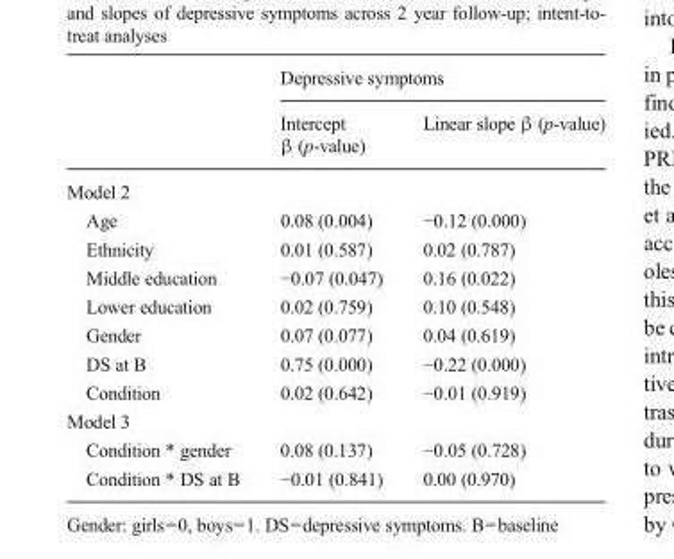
<table><thead><tr><td rowspan="2"></td><td colspan="2">Depressive symptoms</td></tr><tr><td>Intercept β (p-value)</td><td>Linear slope β (p-value)</td></tr></thead><tbody><tr><td colspan="3">Model 2</td></tr><tr><td>Age</td><td>0.08 (0.004)</td><td>−0.12 (0.000)</td></tr><tr><td>Ethnicity</td><td>0.01 (0.587)</td><td>0.02 (0.787)</td></tr><tr><td>Middle education</td><td>−0.07 (0.047)</td><td>0.16 (0.022)</td></tr><tr><td>Lower education</td><td>0.02 (0.759)</td><td>0.10 (0.548)</td></tr><tr><td>Gender</td><td>0.07 (0.077)</td><td>0.04 (0.619)</td></tr><tr><td>DS at B</td><td>0.75 (0.000)</td><td>−0.22 (0.000)</td></tr><tr><td>Condition</td><td>0.02 (0.642)</td><td>−0.01 (0.919)</td></tr><tr><td colspan="3">Model 3</td></tr><tr><td>Condition * gender</td><td>0.08 (0.137)</td><td>−0.05 (0.728)</td></tr><tr><td>Condition * DS at B</td><td>−0.01 (0.841)</td><td>0.00 (0.970)</td></tr></tbody></table>